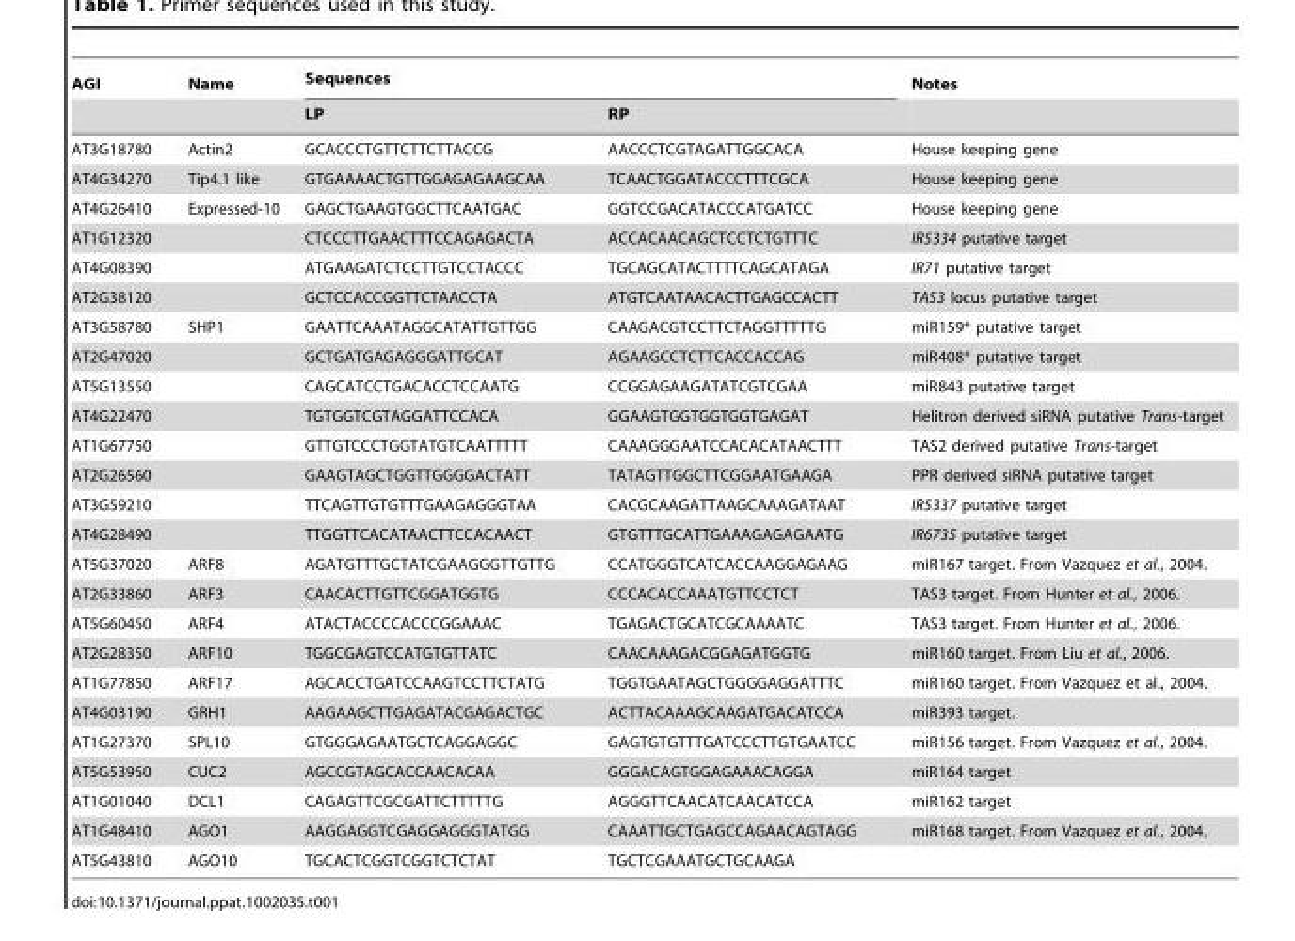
<table><thead><tr><td rowspan="2">AGI</td><td rowspan="2">Name</td><td colspan="2">Sequences</td><td rowspan="2">Notes</td></tr><tr><td>LP</td><td>RP</td></tr></thead><tbody><tr><td>AT3G18780</td><td>Actin2</td><td>GCACCCTGTTCTTCTTACCG</td><td>AACCCTCGTAGATTGGCACA</td><td>House keeping gene</td></tr><tr><td>AT4G34270</td><td>Tip4.1 like</td><td>GTGAAAACTGTTGGAGAGAAGCAA</td><td>TCAACTGGATACCCTTTCGCA</td><td>House keeping gene</td></tr><tr><td>AT4G26410</td><td>Expressed-10</td><td>GAGCTGAAGTGGCTTCAATGAC</td><td>GGTCCGACATACCCATGATCC</td><td>House keeping gene</td></tr><tr><td>AT1G12320</td><td></td><td>CTCCCTTGAACTTTCCAGAGACTA</td><td>ACCACAACAGCTCCTCTGTTTC</td><td>IR5334 putative target</td></tr><tr><td>AT4G08390</td><td></td><td>ATGAAGATCTCCTTGTCCTACCC</td><td>TGCAGCATACTTTTCAGCATAGA</td><td>IR71 putative target</td></tr><tr><td>AT2G38120</td><td></td><td>GCTCCACCGGTTCTAACCTA</td><td>ATGTCAATAACACTTGAGCCACTT</td><td>TAS3 locus putative target</td></tr><tr><td>AT3G58780</td><td>SHP1</td><td>GAATTCAAATAGGCATATTGTTGG</td><td>CAAGACGTCCTTCTAGGTTTTTG</td><td>miR159* putative target</td></tr><tr><td>AT2G47020</td><td></td><td>GCTGATGAGAGGGATTGCAT</td><td>AGAAGCCTCTTCACCACCAG</td><td>miR408* putative target</td></tr><tr><td>AT5G13550</td><td></td><td>CAGCATCCTGACACCTCCAATG</td><td>CCGGAGAAGATATCGTCGAA</td><td>miR843 putative target</td></tr><tr><td>AT4G22470</td><td></td><td>TGTGGTCGTAGGATTCCACA</td><td>GGAAGTGGTGGTGGTGAGAT</td><td>Helitron derived siRNA putative Trans-target</td></tr><tr><td>AT1G67750</td><td></td><td>GTTGTCCCTGGTATGTCAATTTTT</td><td>CAAAGGGAATCCACACATAACTTT</td><td>TAS2 derived putative Trans-target</td></tr><tr><td>AT2G26560</td><td></td><td>GAAGTAGCTGGTTGGGGACTATT</td><td>TATAGTTGGCTTCGGAATGAAGA</td><td>PPR derived siRNA putative target</td></tr><tr><td>AT3G59210</td><td></td><td>TTCAGTTGTGTTTGAAGAGGGTAA</td><td>CACGCAAGATTAAGCAAAGATAAT</td><td>IR5337 putative target</td></tr><tr><td>AT4G28490</td><td></td><td>TTGGTTCACATAACTTCCACAACT</td><td>GTGTTTGCATTGAAAGAGAGAATG</td><td>IR6735 putative target</td></tr><tr><td>AT5G37020</td><td>ARF8</td><td>AGATGTTTGCTATCGAAGGGTTGTTG</td><td>CCATGGGTCATCACCAAGGAGAAG</td><td>miR167 target. From Vazquez et al., 2004.</td></tr><tr><td>AT2G33860</td><td>ARF3</td><td>CAACACTTGTTCGGATGGTG</td><td>CCCACACCAAATGTTCCTCT</td><td>TAS3 target. From Hunter et al., 2006.</td></tr><tr><td>AT5G60450</td><td>ARF4</td><td>ATACTACCCCACCCGGAAAC</td><td>TGAGACTGCATCGCAAAATC</td><td>TAS3 target. From Hunter et al., 2006.</td></tr><tr><td>AT2G28350</td><td>ARF10</td><td>TGGCGAGTCCATGTGTTATC</td><td>CAACAAAGACGGAGATGGTG</td><td>miR160 target. From Liu et al., 2006.</td></tr><tr><td>AT1G77850</td><td>ARF17</td><td>AGCACCTGATCCAAGTCCTTCTATG</td><td>TGGTGAATAGCTGGGGAGGATTTC</td><td>miR160 target. From Vazquez et al., 2004.</td></tr><tr><td>AT4G03190</td><td>GRH1</td><td>AAGAAGCTTGAGATACGAGACTGC</td><td>ACTTACAAAGCAAGATGACATCCA</td><td>miR393 target.</td></tr><tr><td>AT1G27370</td><td>SPL10</td><td>GTGGGAGAATGCTCAGGAGGC</td><td>GAGTGTGTTTGATCCCTTGTGAATCC</td><td>miR156 target. From Vazquez et al., 2004.</td></tr><tr><td>AT5G53950</td><td>CUC2</td><td>AGCCGTAGCACCAACACAA</td><td>GGGACAGTGGAGAAACAGGA</td><td>miR164 target</td></tr><tr><td>AT1G01040</td><td>DCL1</td><td>CAGAGTTCGCGATTCTTTTTG</td><td>AGGGTTCAACATCAACATCCA</td><td>miR162 target</td></tr><tr><td>AT1G48410</td><td>AGO1</td><td>AAGGAGGTCGAGGAGGGTATGG</td><td>CAAATTGCTGAGCCAGAACAGTAGG</td><td>miR168 target. From Vazquez et al., 2004.</td></tr><tr><td>AT5G43810</td><td>AGO10</td><td>TGCACTCGGTCGGTCTCTAT</td><td>TGCTCGAAATGCTGCAAGA</td><td></td></tr></tbody></table>